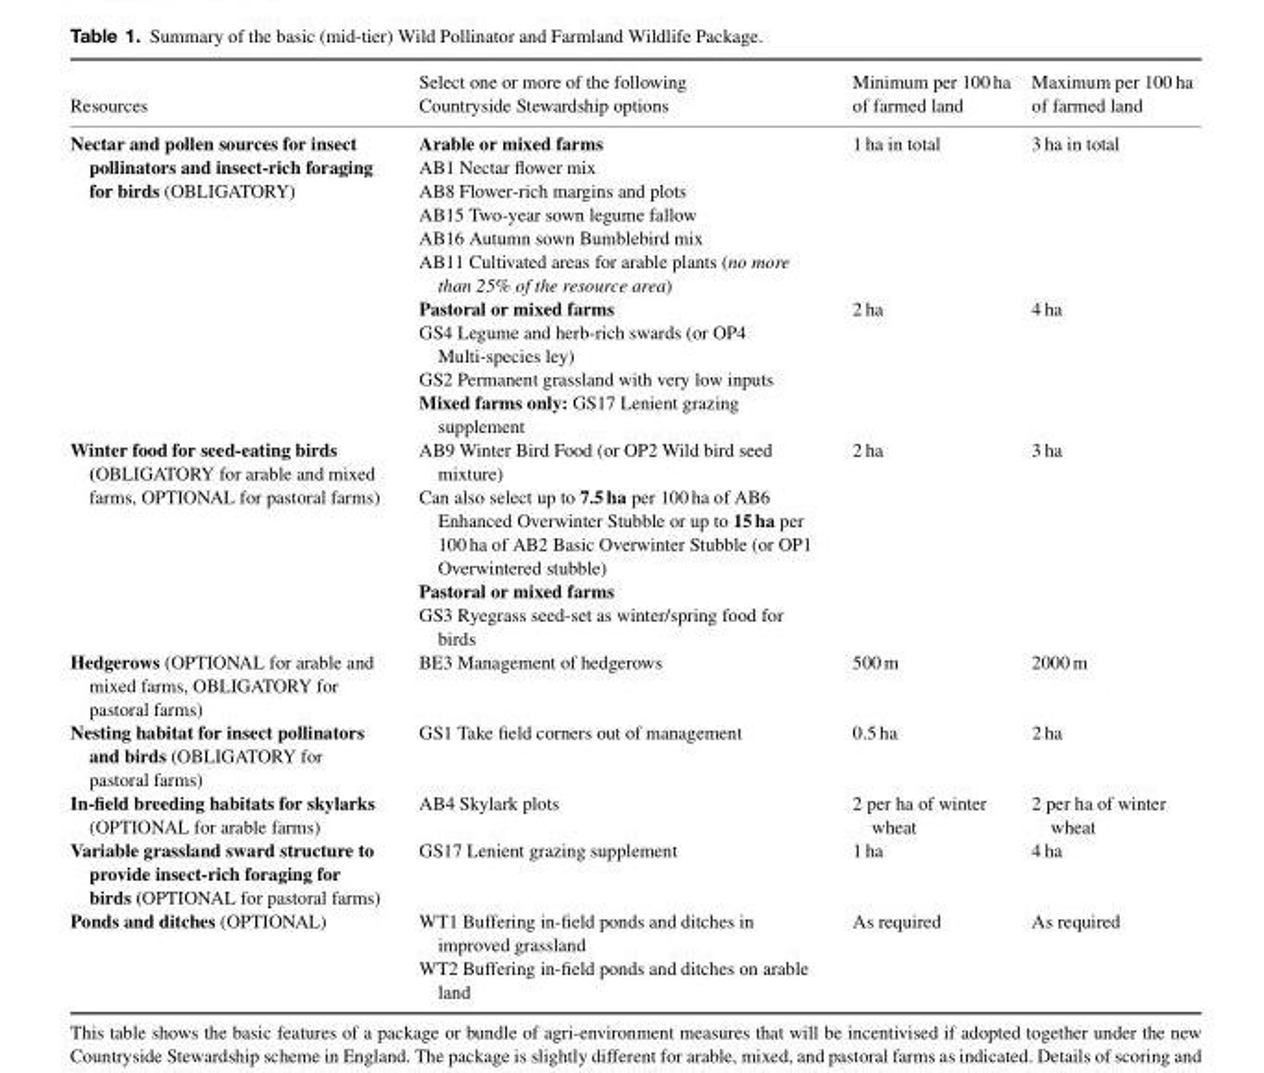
<table><thead><tr><td>Resources</td><td>Select one or more of the following Countryside Stewardship options</td><td>Minimum per 100 ha of farmed land</td><td>Maximum per 100 ha of farmed land</td></tr></thead><tbody><tr><td rowspan="10">Nectar and pollen sources for insect pollinators and insect-rich foraging for birds (OBLIGATORY)</td><td>Arable or mixed farms</td><td rowspan="6">1 ha in total</td><td rowspan="6">3 ha in total</td></tr><tr><td>AB1 Nectar flower mix</td></tr><tr><td>AB8 Flower-rich margins and plots</td></tr><tr><td>AB15 Two-year sown legume fallow</td></tr><tr><td>AB16 Autumn sown Bumblebird mix</td></tr><tr><td>AB11 Cultivated areas for arable plants (no more than 25% of the resource area)</td></tr><tr><td>Pastoral or mixed farms</td><td rowspan="4">2 ha</td><td rowspan="4">4 ha</td></tr><tr><td>GS4 Legume and herb-rich swards (or OP4 Multi-species ley)</td></tr><tr><td>GS2 Permanent grassland with very low inputs</td></tr><tr><td>Mixed farms only: GS17 Lenient grazing supplement</td></tr><tr><td rowspan="4">Winter food for seed-eating birds (OBLIGATORY for arable and mixed farms, OPTIONAL for pastoral farms)</td><td>AB9 Winter Bird Food (or OP2 Wild bird seed mixture)</td><td rowspan="4">2 ha</td><td rowspan="4">3 ha</td></tr><tr><td>Can also select up to 7.5 ha per 100 ha of AB6 Enhanced Overwinter Stubble or up to 15 ha per 100 ha of AB2 Basic Overwinter Stubble (or OP1 Overwintered stubble)</td></tr><tr><td>Pastoral or mixed farms</td></tr><tr><td>GS3 Ryegrass seed-set as winter/spring food for birds</td></tr><tr><td>Hedgerows (OPTIONAL for arable and mixed farms, OBLIGATORY for pastoral farms)</td><td>BE3 Management of hedgerows</td><td>500 m</td><td>2000 m</td></tr><tr><td>Nesting habitat for insect pollinators and birds (OBLIGATORY for pastoral farms)</td><td>GS1 Take field corners out of management</td><td>0.5 ha</td><td>2 ha</td></tr><tr><td>In-field breeding habitats for skylarks (OPTIONAL for arable farms)</td><td>AB4 Skylark plots</td><td>2 per ha of winter wheat</td><td>2 per ha of winter wheat</td></tr><tr><td>Variable grassland sward structure to provide insect-rich foraging for birds (OPTIONAL for pastoral farms)</td><td>GS17 Lenient grazing supplement</td><td>1 ha</td><td>4 ha</td></tr><tr><td rowspan="2">Ponds and ditches (OPTIONAL)</td><td>WT1 Buffering in-field ponds and ditches in improved grassland</td><td rowspan="2">As required</td><td rowspan="2">As required</td></tr><tr><td>WT2 Buffering in-field ponds and ditches on arable land</td></tr></tbody></table>